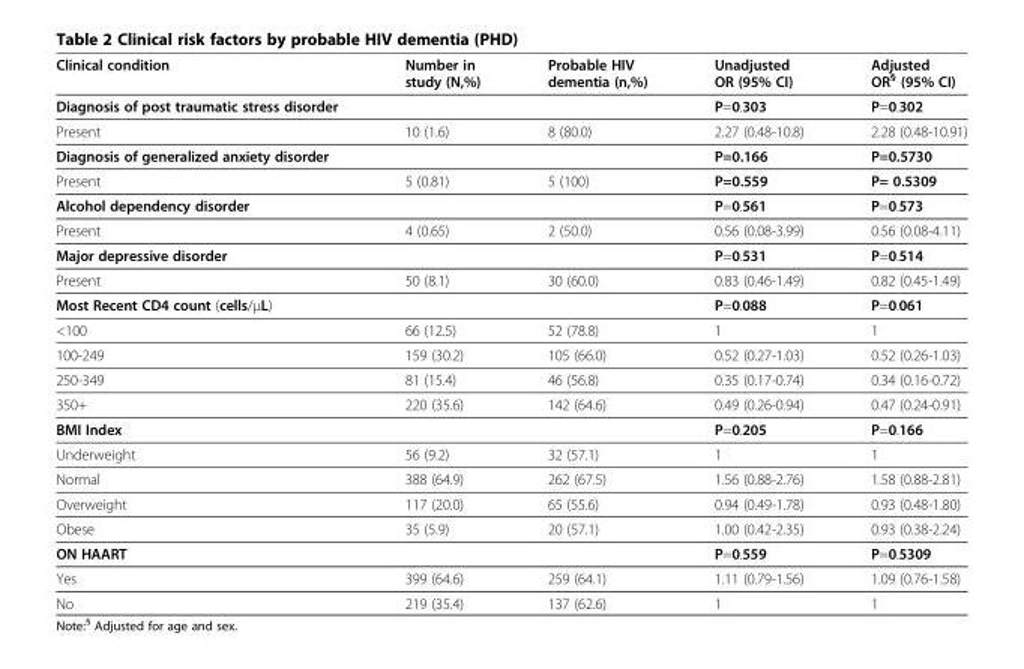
<table><thead><tr><td>Clinical condition</td><td>Number in study (N,%)</td><td>Probable HIV dementia (n,%)</td><td>Unadjusted OR (95% CI)</td><td>Adjusted OR<sup>§</sup> (95% CI)</td></tr></thead><tbody><tr><td>Diagnosis of post traumatic stress disorder</td><td></td><td></td><td>P=0.303</td><td>P=0.302</td></tr><tr><td>Present</td><td>10 (1.6)</td><td>8 (80.0)</td><td>2.27 (0.48-10.8)</td><td>2.28 (0.48-10.91)</td></tr><tr><td>Diagnosis of generalized anxiety disorder</td><td></td><td></td><td>P=0.166</td><td>P=0.5730</td></tr><tr><td>Present</td><td>5 (0.81)</td><td>5 (100)</td><td>P=0.559</td><td>P= 0.5309</td></tr><tr><td>Alcohol dependency disorder</td><td></td><td></td><td>P=0.561</td><td>P=0.573</td></tr><tr><td>Present</td><td>4 (0.65)</td><td>2 (50.0)</td><td>0.56 (0.08-3.99)</td><td>0.56 (0.08-4.11)</td></tr><tr><td>Major depressive disorder</td><td></td><td></td><td>P=0.531</td><td>P=0.514</td></tr><tr><td>Present</td><td>50 (8.1)</td><td>30 (60.0)</td><td>0.83 (0.46-1.49)</td><td>0.82 (0.45-1.49)</td></tr><tr><td>Most Recent CD4 count (cells/μL)</td><td></td><td></td><td>P=0.088</td><td>P=0.061</td></tr><tr><td>&lt;100</td><td>66 (12.5)</td><td>52 (78.8)</td><td>1</td><td>1</td></tr><tr><td>100-249</td><td>159 (30.2)</td><td>105 (66.0)</td><td>0.52 (0.27-1.03)</td><td>0.52 (0.26-1.03)</td></tr><tr><td>250-349</td><td>81 (15.4)</td><td>46 (56.8)</td><td>0.35 (0.17-0.74)</td><td>0.34 (0.16-0.72)</td></tr><tr><td>350+</td><td>220 (35.6)</td><td>142 (64.6)</td><td>0.49 (0.26-0.94)</td><td>0.47 (0.24-0.91)</td></tr><tr><td>BMI Index</td><td></td><td></td><td>P=0.205</td><td>P=0.166</td></tr><tr><td>Underweight</td><td>56 (9.2)</td><td>32 (57.1)</td><td>1</td><td>1</td></tr><tr><td>Normal</td><td>388 (64.9)</td><td>262 (67.5)</td><td>1.56 (0.88-2.76)</td><td>1.58 (0.88-2.81)</td></tr><tr><td>Overweight</td><td>117 (20.0)</td><td>65 (55.6)</td><td>0.94 (0.49-1.78)</td><td>0.93 (0.48-1.80)</td></tr><tr><td>Obese</td><td>35 (5.9)</td><td>20 (57.1)</td><td>1.00 (0.42-2.35)</td><td>0.93 (0.38-2.24)</td></tr><tr><td>ON HAART</td><td></td><td></td><td>P=0.559</td><td>P=0.5309</td></tr><tr><td>Yes</td><td>399 (64.6)</td><td>259 (64.1)</td><td>1.11 (0.79-1.56)</td><td>1.09 (0.76-1.58)</td></tr><tr><td>No</td><td>219 (35.4)</td><td>137 (62.6)</td><td>1</td><td>1</td></tr></tbody></table>